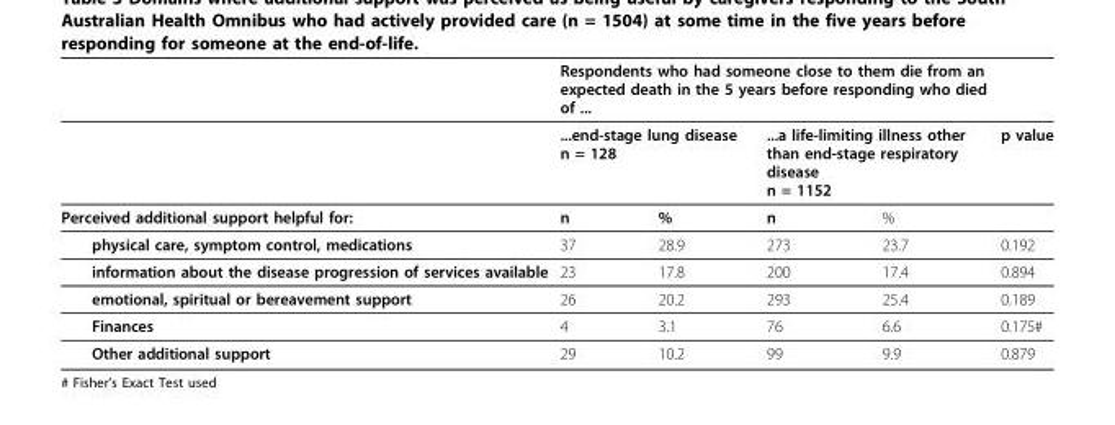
<table><thead><tr><td rowspan="3">Perceived additional support helpful for:</td><td colspan="4">Respondents who had someone close to them die from an expected death in the 5 years before responding who died of ...</td><td rowspan="3">p value</td></tr><tr><td colspan="2">...end-stage lung disease n = 128</td><td colspan="2">...a life-limiting illness other than end-stage respiratory disease n = 1152</td></tr><tr><td>n</td><td>%</td><td>n</td><td>%</td></tr></thead><tbody><tr><td>physical care, symptom control, medications</td><td>37</td><td>28.9</td><td>273</td><td>23.7</td><td>0.192</td></tr><tr><td>information about the disease progression of services available</td><td>23</td><td>17.8</td><td>200</td><td>17.4</td><td>0.894</td></tr><tr><td>emotional, spiritual or bereavement support</td><td>26</td><td>20.2</td><td>293</td><td>25.4</td><td>0.189</td></tr><tr><td>Finances</td><td>4</td><td>3.1</td><td>76</td><td>6.6</td><td>0.175#</td></tr><tr><td>Other additional support</td><td>29</td><td>10.2</td><td>99</td><td>9.9</td><td>0.879</td></tr></tbody></table>